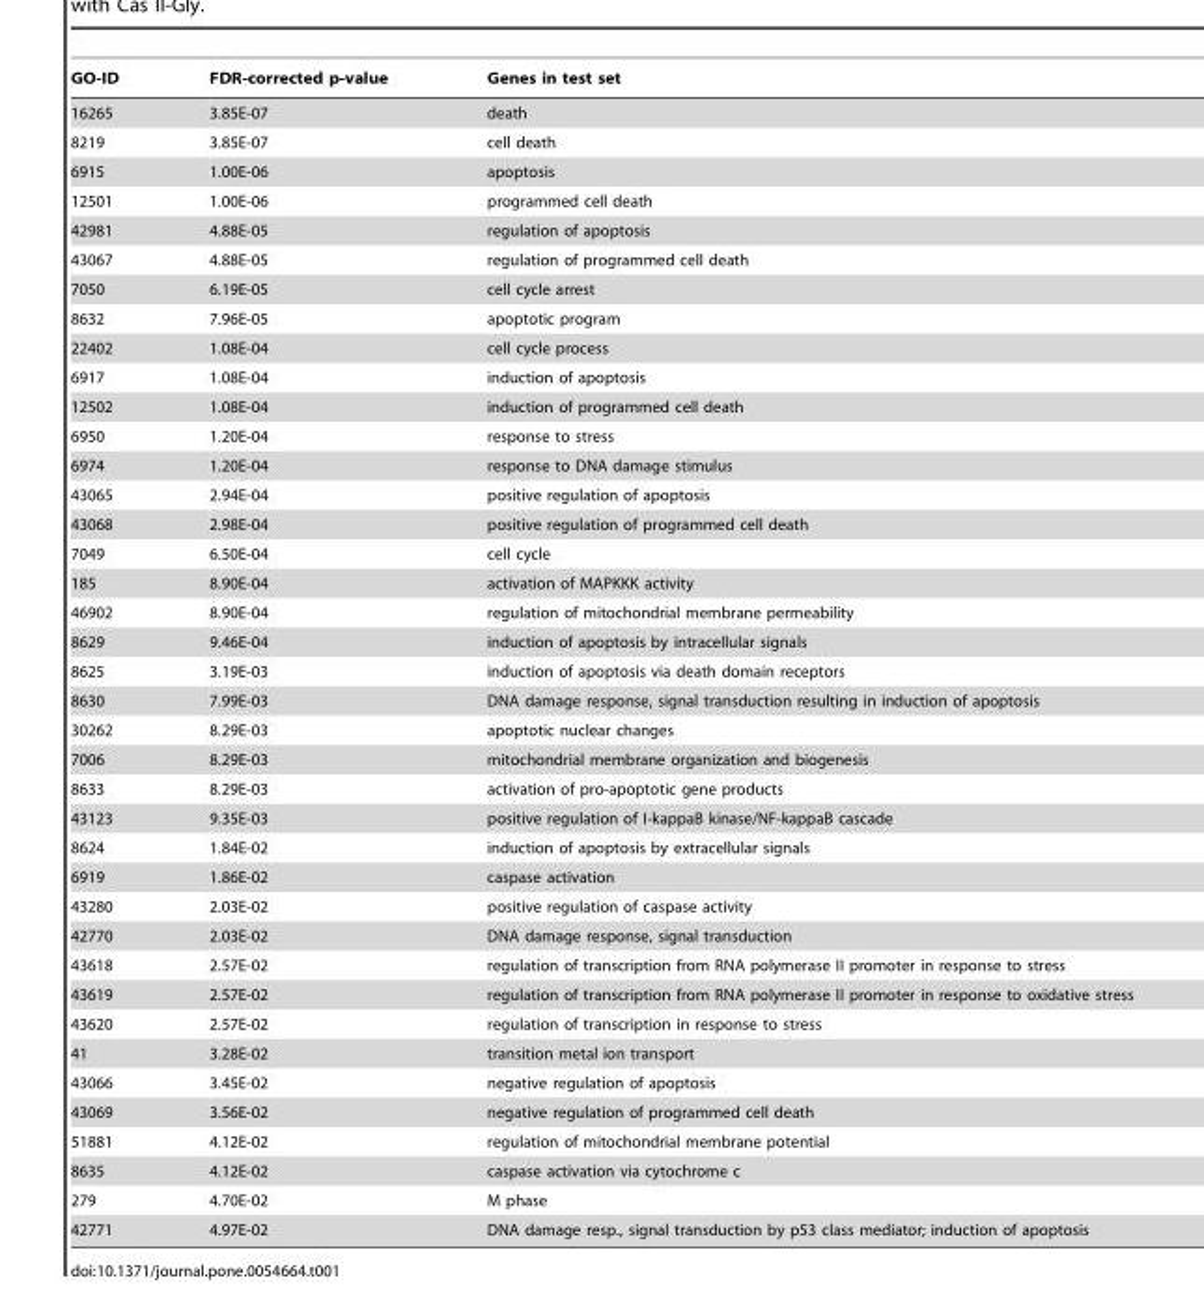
<table><thead><tr><td>GO-ID</td><td>FDR-corrected p-value</td><td>Genes in test set</td></tr></thead><tbody><tr><td>16265</td><td>3.85E-07</td><td>death</td></tr><tr><td>8219</td><td>3.85E-07</td><td>cell death</td></tr><tr><td>6915</td><td>1.00E-06</td><td>apoptosis</td></tr><tr><td>12501</td><td>1.00E-06</td><td>programmed cell death</td></tr><tr><td>42981</td><td>4.88E-05</td><td>regulation of apoptosis</td></tr><tr><td>43067</td><td>4.88E-05</td><td>regulation of programmed cell death</td></tr><tr><td>7050</td><td>6.19E-05</td><td>cell cycle arrest</td></tr><tr><td>8632</td><td>7.96E-05</td><td>apoptotic program</td></tr><tr><td>22402</td><td>1.08E-04</td><td>cell cycle process</td></tr><tr><td>6917</td><td>1.08E-04</td><td>induction of apoptosis</td></tr><tr><td>12502</td><td>1.08E-04</td><td>induction of programmed cell death</td></tr><tr><td>6950</td><td>1.20E-04</td><td>response to stress</td></tr><tr><td>6974</td><td>1.20E-04</td><td>response to DNA damage stimulus</td></tr><tr><td>43065</td><td>2.94E-04</td><td>positive regulation of apoptosis</td></tr><tr><td>43068</td><td>2.98E-04</td><td>positive regulation of programmed cell death</td></tr><tr><td>7049</td><td>6.50E-04</td><td>cell cycle</td></tr><tr><td>185</td><td>8.90E-04</td><td>activation of MAPKKK activity</td></tr><tr><td>46902</td><td>8.90E-04</td><td>regulation of mitochondrial membrane permeability</td></tr><tr><td>8629</td><td>9.46E-04</td><td>induction of apoptosis by intracellular signals</td></tr><tr><td>8625</td><td>3.19E-03</td><td>induction of apoptosis via death domain receptors</td></tr><tr><td>8630</td><td>7.99E-03</td><td>DNA damage response, signal transduction resulting in induction of apoptosis</td></tr><tr><td>30262</td><td>8.29E-03</td><td>apoptotic nuclear changes</td></tr><tr><td>7006</td><td>8.29E-03</td><td>mitochondrial membrane organization and biogenesis</td></tr><tr><td>8633</td><td>8.29E-03</td><td>activation of pro-apoptotic gene products</td></tr><tr><td>43123</td><td>9.35E-03</td><td>positive regulation of I-kappaB kinase/NF-kappaB cascade</td></tr><tr><td>8624</td><td>1.84E-02</td><td>induction of apoptosis by extracellular signals</td></tr><tr><td>6919</td><td>1.86E-02</td><td>caspase activation</td></tr><tr><td>43280</td><td>2.03E-02</td><td>positive regulation of caspase activity</td></tr><tr><td>42770</td><td>2.03E-02</td><td>DNA damage response, signal transduction</td></tr><tr><td>43618</td><td>2.57E-02</td><td>regulation of transcription from RNA polymerase II promoter in response to stress</td></tr><tr><td>43619</td><td>2.57E-02</td><td>regulation of transcription from RNA polymerase II promoter in response to oxidative stress</td></tr><tr><td>43620</td><td>2.57E-02</td><td>regulation of transcription in response to stress</td></tr><tr><td>41</td><td>3.28E-02</td><td>transition metal ion transport</td></tr><tr><td>43066</td><td>3.45E-02</td><td>negative regulation of apoptosis</td></tr><tr><td>43069</td><td>3.56E-02</td><td>negative regulation of programmed cell death</td></tr><tr><td>51881</td><td>4.12E-02</td><td>regulation of mitochondrial membrane potential</td></tr><tr><td>8635</td><td>4.12E-02</td><td>caspase activation via cytochrome c</td></tr><tr><td>279</td><td>4.70E-02</td><td>M phase</td></tr><tr><td>42771</td><td>4.97E-02</td><td>DNA damage resp., signal transduction by p53 class mediator; induction of apoptosis</td></tr></tbody></table>